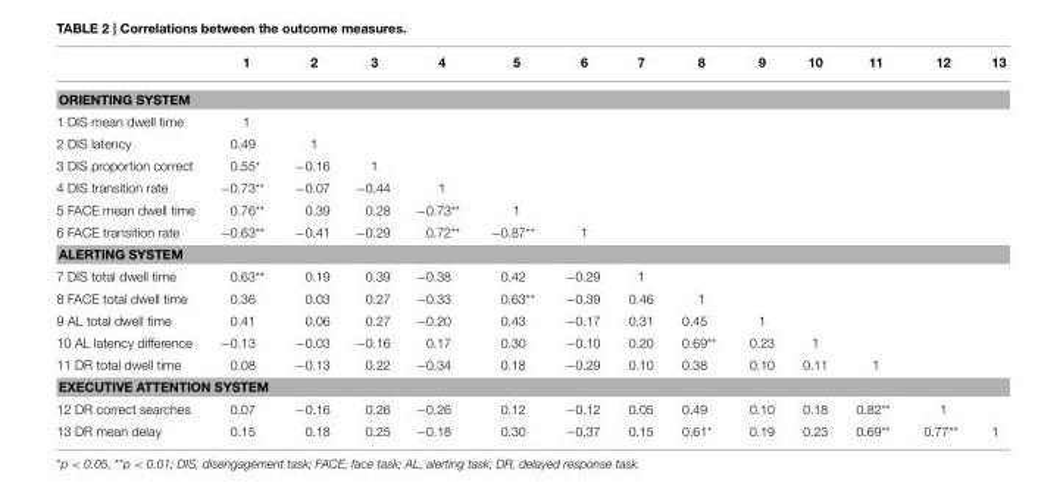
<table><thead><tr><td></td><td>1</td><td>2</td><td>3</td><td>4</td><td>5</td><td>6</td><td>7</td><td>8</td><td>9</td><td>10</td><td>11</td><td>12</td><td>13</td></tr></thead><tbody><tr><td colspan="14">ORIENTING SYSTEM</td></tr><tr><td>1 DIS mean dwell time</td><td>1</td><td></td><td></td><td></td><td></td><td></td><td></td><td></td><td></td><td></td><td></td><td></td><td></td></tr><tr><td>2 DIS latency</td><td>0.49</td><td>1</td><td></td><td></td><td></td><td></td><td></td><td></td><td></td><td></td><td></td><td></td><td></td></tr><tr><td>3 DIS proportion correct</td><td>0.55*</td><td>−0.16</td><td>1</td><td></td><td></td><td></td><td></td><td></td><td></td><td></td><td></td><td></td><td></td></tr><tr><td>4 DIS transition rate</td><td>−0.73**</td><td>−0.07</td><td>−0.44</td><td>1</td><td></td><td></td><td></td><td></td><td></td><td></td><td></td><td></td><td></td></tr><tr><td>5 FACE mean dwell time</td><td>0.76**</td><td>0.39</td><td>0.28</td><td>−0.73**</td><td>1</td><td></td><td></td><td></td><td></td><td></td><td></td><td></td><td></td></tr><tr><td>6 FACE transition rate</td><td>−0.63**</td><td>−0.41</td><td>−0.29</td><td>0.72**</td><td>−0.87**</td><td>1</td><td></td><td></td><td></td><td></td><td></td><td></td><td></td></tr><tr><td colspan="14">ALERTING SYSTEM</td></tr><tr><td>7 DIS total dwell time</td><td>0.63**</td><td>0.19</td><td>0.39</td><td>−0.38</td><td>0.42</td><td>−0.29</td><td>1</td><td></td><td></td><td></td><td></td><td></td><td></td></tr><tr><td>8 FACE total dwell time</td><td>0.36</td><td>0.03</td><td>0.27</td><td>−0.33</td><td>0.63**</td><td>−0.39</td><td>0.46</td><td>1</td><td></td><td></td><td></td><td></td><td></td></tr><tr><td>9 AL total dwell time</td><td>0.41</td><td>0.06</td><td>0.27</td><td>−0.20</td><td>0.43</td><td>−0.17</td><td>0.31</td><td>0.45</td><td>1</td><td></td><td></td><td></td><td></td></tr><tr><td>10 AL latency difference</td><td>−0.13</td><td>−0.03</td><td>−0.16</td><td>0.17</td><td>0.30</td><td>−0.10</td><td>0.20</td><td>0.69**</td><td>0.23</td><td>1</td><td></td><td></td><td></td></tr><tr><td>11 DR total dwell time</td><td>0.08</td><td>−0.13</td><td>0.22</td><td>−0.34</td><td>0.18</td><td>−0.29</td><td>0.10</td><td>0.38</td><td>0.10</td><td>0.11</td><td>1</td><td></td><td></td></tr><tr><td colspan="14">EXECUTIVE ATTENTION SYSTEM</td></tr><tr><td>12 DR correct searches</td><td>0.07</td><td>−0.16</td><td>0.26</td><td>−0.26</td><td>0.12</td><td>−0.12</td><td>0.05</td><td>0.49</td><td>0.10</td><td>0.18</td><td>0.82**</td><td>1</td><td></td></tr><tr><td>13 DR mean delay</td><td>0.15</td><td>0.18</td><td>0.25</td><td>−0.18</td><td>0.30</td><td>−0.37</td><td>0.15</td><td>0.61*</td><td>0.19</td><td>0.23</td><td>0.69**</td><td>0.77**</td><td>1</td></tr></tbody></table>